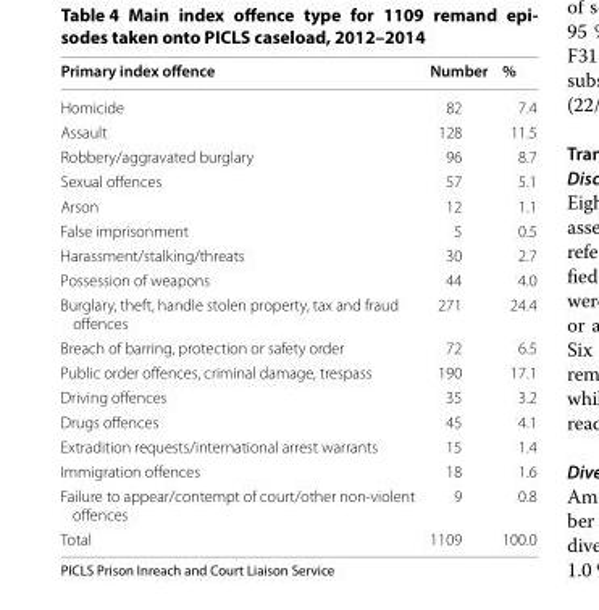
<table><thead><tr><td>Primary index offence</td><td>Number</td><td>%</td></tr></thead><tbody><tr><td>Homicide</td><td>82</td><td>7.4</td></tr><tr><td>Assault</td><td>128</td><td>11.5</td></tr><tr><td>Robbery/aggravated burglary</td><td>96</td><td>8.7</td></tr><tr><td>Sexual offences</td><td>57</td><td>5.1</td></tr><tr><td>Arson</td><td>12</td><td>1.1</td></tr><tr><td>False imprisonment</td><td>5</td><td>0.5</td></tr><tr><td>Harassment/stalking/threats</td><td>30</td><td>2.7</td></tr><tr><td>Possession of weapons</td><td>44</td><td>4.0</td></tr><tr><td>Burglary, theft, handle stolen property, tax and fraud offences</td><td>271</td><td>24.4</td></tr><tr><td>Breach of barring, protection or safety order</td><td>72</td><td>6.5</td></tr><tr><td>Public order offences, criminal damage, trespass</td><td>190</td><td>17.1</td></tr><tr><td>Driving offences</td><td>35</td><td>3.2</td></tr><tr><td>Drugs offences</td><td>45</td><td>4.1</td></tr><tr><td>Extradition requests/international arrest warrants</td><td>15</td><td>1.4</td></tr><tr><td>Immigration offences</td><td>18</td><td>1.6</td></tr><tr><td>Failure to appear/contempt of court/other non-violent offences</td><td>9</td><td>0.8</td></tr><tr><td>Total</td><td>1109</td><td>100.0</td></tr></tbody></table>